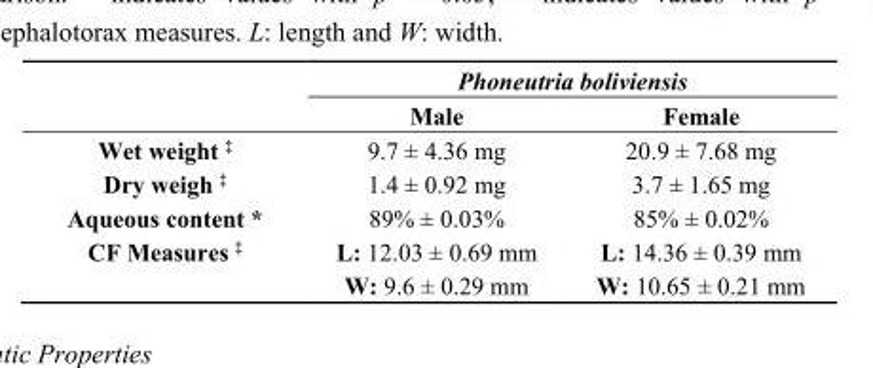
<table><thead><tr><td rowspan="2"></td><td colspan="2">Phoneutria boliviensis</td></tr><tr><td>Male</td><td>Female</td></tr></thead><tbody><tr><td>Wet weight <sup>‡</sup></td><td>9.7 ± 4.36 mg</td><td>20.9 ± 7.68 mg</td></tr><tr><td>Dry weigh <sup>‡</sup></td><td>1.4 ± 0.92 mg</td><td>3.7 ± 1.65 mg</td></tr><tr><td>Aqueous content *</td><td>89% ± 0.03%</td><td>85% ± 0.02%</td></tr><tr><td>CF Measures <sup>‡</sup></td><td>L: 12.03 ± 0.69 mm W: 9.6 ± 0.29 mm</td><td>L: 14.36 ± 0.39 mm W: 10.65 ± 0.21 mm</td></tr></tbody></table>